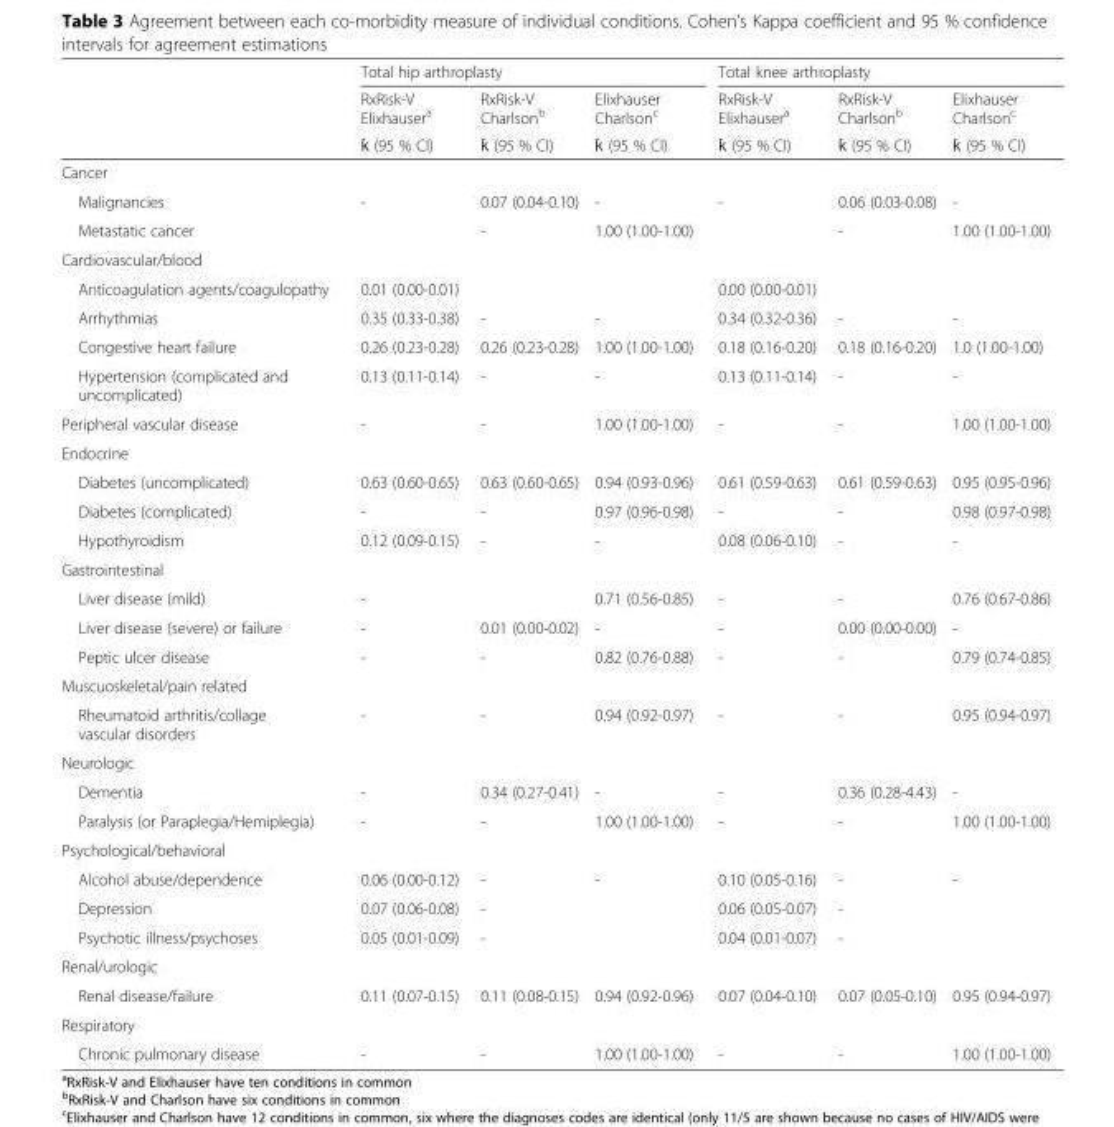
<table><thead><tr><td rowspan="3"></td><td colspan="3">Total hip arthroplasty</td><td colspan="3">Total knee arthroplasty</td></tr><tr><td rowspan="2">RxRisk-V Elixhauser<sup>a</sup> ƙ (95 % CI)</td><td rowspan="2">RxRisk-V Charlson<sup>b</sup> ƙ (95 % CI)</td><td rowspan="2">Elixhauser Charlson<sup>c</sup> ƙ (95 % CI)</td><td rowspan="2">RxRisk-V Elixhauser<sup>a</sup> ƙ (95 % CI)</td><td rowspan="2">RxRisk-V Charlson<sup>b</sup> ƙ (95 % CI)</td><td rowspan="2">Elixhauser Charlson<sup>c</sup> ƙ (95 % CI)</td></tr><tr></tr></thead><tbody><tr><td colspan="7">Cancer</td></tr><tr><td>Malignancies</td><td>-</td><td>0.07 (0.04-0.10)</td><td>-</td><td>-</td><td>0.06 (0.03-0.08)</td><td>-</td></tr><tr><td>Metastatic cancer</td><td></td><td>-</td><td>1.00 (1.00-1.00)</td><td></td><td>-</td><td>1.00 (1.00-1.00)</td></tr><tr><td colspan="7">Cardiovascular/blood</td></tr><tr><td>Anticoagulation agents/coagulopathy</td><td>0.01 (0.00-0.01)</td><td></td><td></td><td>0.00 (0.00-0.01)</td><td></td><td></td></tr><tr><td>Arrhythmias</td><td>0.35 (0.33-0.38)</td><td>-</td><td>-</td><td>0.34 (0.32-0.36)</td><td>-</td><td>-</td></tr><tr><td>Congestive heart failure</td><td>0.26 (0.23-0.28)</td><td>0.26 (0.23-0.28)</td><td>1.00 (1.00-1.00)</td><td>0.18 (0.16-0.20)</td><td>0.18 (0.16-0.20)</td><td>1.0 (1.00-1.00)</td></tr><tr><td>Hypertension (complicated and uncomplicated)</td><td>0.13 (0.11-0.14)</td><td>-</td><td>-</td><td>0.13 (0.11-0.14)</td><td>-</td><td>-</td></tr><tr><td>Peripheral vascular disease</td><td>-</td><td>-</td><td>1.00 (1.00-1.00)</td><td>-</td><td>-</td><td>1.00 (1.00-1.00)</td></tr><tr><td colspan="7">Endocrine</td></tr><tr><td>Diabetes (uncomplicated)</td><td>0.63 (0.60-0.65)</td><td>0.63 (0.60-0.65)</td><td>0.94 (0.93-0.96)</td><td>0.61 (0.59-0.63)</td><td>0.61 (0.59-0.63)</td><td>0.95 (0.95-0.96)</td></tr><tr><td>Diabetes (complicated)</td><td>-</td><td>-</td><td>0.97 (0.96-0.98)</td><td>-</td><td>-</td><td>0.98 (0.97-0.98)</td></tr><tr><td>Hypothyroidism</td><td>0.12 (0.09-0.15)</td><td>-</td><td>-</td><td>0.08 (0.06-0.10)</td><td>-</td><td>-</td></tr><tr><td colspan="7">Gastrointestinal</td></tr><tr><td>Liver disease (mild)</td><td>-</td><td></td><td>0.71 (0.56-0.85)</td><td>-</td><td>-</td><td>0.76 (0.67-0.86)</td></tr><tr><td>Liver disease (severe) or failure</td><td>-</td><td>0.01 (0.00-0.02)</td><td>-</td><td>-</td><td>0.00 (0.00-0.00)</td><td>-</td></tr><tr><td>Peptic ulcer disease</td><td>-</td><td>-</td><td>0.82 (0.76-0.88)</td><td>-</td><td>-</td><td>0.79 (0.74-0.85)</td></tr><tr><td colspan="7">Muscuoskeletal/pain related</td></tr><tr><td>Rheumatoid arthritis/collage vascular disorders</td><td>-</td><td>-</td><td>0.94 (0.92-0.97)</td><td>-</td><td>-</td><td>0.95 (0.94-0.97)</td></tr><tr><td colspan="7">Neurologic</td></tr><tr><td>Dementia</td><td>-</td><td>0.34 (0.27-0.41)</td><td>-</td><td>-</td><td>0.36 (0.28-4.43)</td><td>-</td></tr><tr><td>Paralysis (or Paraplegia/Hemiplegia)</td><td>-</td><td>-</td><td>1.00 (1.00-1.00)</td><td>-</td><td>-</td><td>1.00 (1.00-1.00)</td></tr><tr><td colspan="7">Psychological/behavioral</td></tr><tr><td>Alcohol abuse/dependence</td><td>0.06 (0.00-0.12)</td><td>-</td><td>-</td><td>0.10 (0.05-0.16)</td><td>-</td><td>-</td></tr><tr><td>Depression</td><td>0.07 (0.06-0.08)</td><td>-</td><td></td><td>0.06 (0.05-0.07)</td><td>-</td><td></td></tr><tr><td>Psychotic illness/psychoses</td><td>0.05 (0.01-0.09)</td><td>-</td><td></td><td>0.04 (0.01-0.07)</td><td>-</td><td></td></tr><tr><td colspan="7">Renal/urologic</td></tr><tr><td>Renal disease/failure</td><td>0.11 (0.07-0.15)</td><td>0.11 (0.08-0.15)</td><td>0.94 (0.92-0.96)</td><td>0.07 (0.04-0.10)</td><td>0.07 (0.05-0.10)</td><td>0.95 (0.94-0.97)</td></tr><tr><td colspan="7">Respiratory</td></tr><tr><td>Chronic pulmonary disease</td><td>-</td><td>-</td><td>1.00 (1.00-1.00)</td><td>-</td><td>-</td><td>1.00 (1.00-1.00)</td></tr></tbody></table>